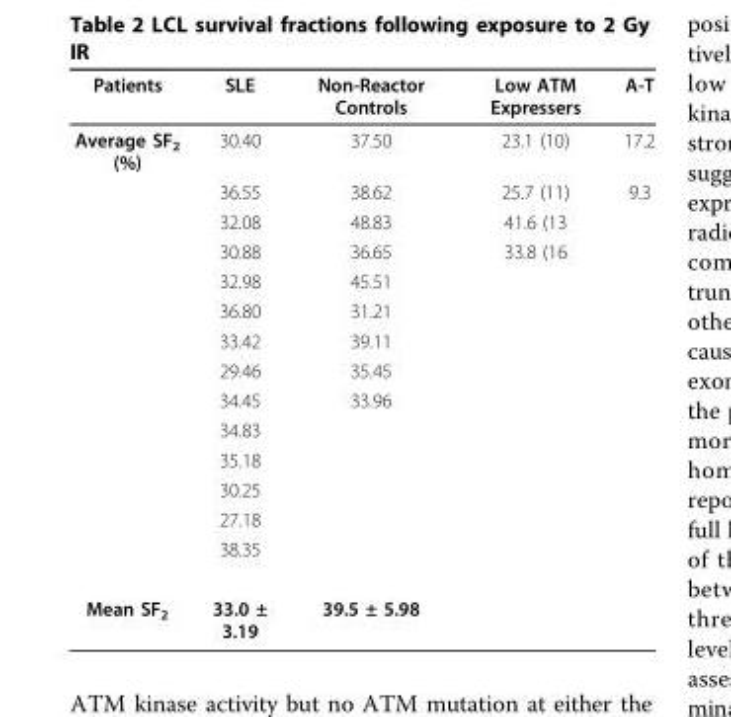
<table><thead><tr><td>Patients</td><td>SLE</td><td>Non-Reactor Controls</td><td>Low ATM Expressers</td><td>A-T</td></tr></thead><tbody><tr><td rowspan="14">Average SF<sub>2</sub> (%)</td><td>30.40</td><td>37.50</td><td>23.1 (10)</td><td>17.2</td></tr><tr><td>36.55</td><td>38.62</td><td>25.7 (11)</td><td>9.3</td></tr><tr><td>32.08</td><td>48.83</td><td>41.6 (13</td><td></td></tr><tr><td>30.88</td><td>36.65</td><td>33.8 (16</td><td></td></tr><tr><td>32.98</td><td>45.51</td><td></td><td></td></tr><tr><td>36.80</td><td>31.21</td><td></td><td></td></tr><tr><td>33.42</td><td>39.11</td><td></td><td></td></tr><tr><td>29.46</td><td>35.45</td><td></td><td></td></tr><tr><td>34.45</td><td>33.96</td><td></td><td></td></tr><tr><td>34.83</td><td></td><td></td><td></td></tr><tr><td>35.18</td><td></td><td></td><td></td></tr><tr><td>30.25</td><td></td><td></td><td></td></tr><tr><td>27.18</td><td></td><td></td><td></td></tr><tr><td>38.35</td><td></td><td></td><td></td></tr><tr><td>Mean SF<sub>2</sub></td><td>33.0 ± 3.19</td><td>39.5 ± 5.98</td><td></td><td></td></tr></tbody></table>